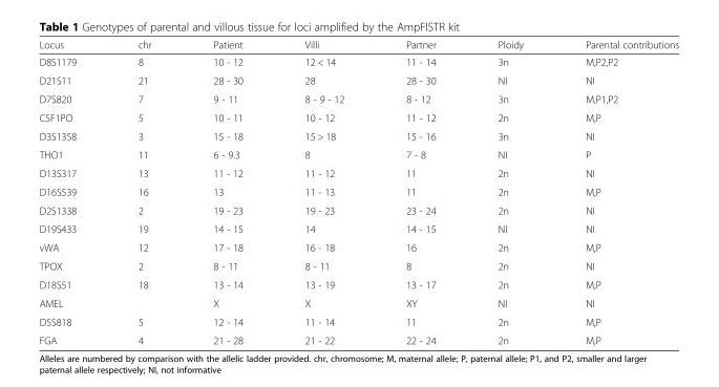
<table><thead><tr><td>Locus</td><td>chr</td><td>Patient</td><td>Villi</td><td>Partner</td><td>Ploidy</td><td>Parental contributions</td></tr></thead><tbody><tr><td>D8S1179</td><td>8</td><td>10 - 12</td><td>12 &lt; 14</td><td>11 - 14</td><td>3n</td><td>M,P2,P2</td></tr><tr><td>D21S11</td><td>21</td><td>28 - 30</td><td>28</td><td>28 - 30</td><td>NI</td><td>NI</td></tr><tr><td>D7S820</td><td>7</td><td>9 - 11</td><td>8 - 9 - 12</td><td>8 - 12</td><td>3n</td><td>M,P1,P2</td></tr><tr><td>CSF1PO</td><td>5</td><td>10 - 11</td><td>10 - 12</td><td>11 - 12</td><td>2n</td><td>M,P</td></tr><tr><td>D3S1358</td><td>3</td><td>15 - 18</td><td>15 &gt; 18</td><td>15 - 16</td><td>3n</td><td>NI</td></tr><tr><td>THO1</td><td>11</td><td>6 - 9.3</td><td>8</td><td>7 - 8</td><td>NI</td><td>P</td></tr><tr><td>D13S317</td><td>13</td><td>11 - 12</td><td>11 - 12</td><td>11</td><td>2n</td><td>NI</td></tr><tr><td>D16S539</td><td>16</td><td>13</td><td>11 - 13</td><td>11</td><td>2n</td><td>M,P</td></tr><tr><td>D2S1338</td><td>2</td><td>19 - 23</td><td>19 - 23</td><td>23 - 24</td><td>2n</td><td>NI</td></tr><tr><td>D19S433</td><td>19</td><td>14 - 15</td><td>14</td><td>14 - 15</td><td>NI</td><td>NI</td></tr><tr><td>vWA</td><td>12</td><td>17 - 18</td><td>16 - 18</td><td>16</td><td>2n</td><td>M,P</td></tr><tr><td>TPOX</td><td>2</td><td>8 - 11</td><td>8 - 11</td><td>8</td><td>2n</td><td>NI</td></tr><tr><td>D18S51</td><td>18</td><td>13 - 14</td><td>13 - 19</td><td>13 - 17</td><td>2n</td><td>M,P</td></tr><tr><td>AMEL</td><td></td><td>X</td><td>X</td><td>XY</td><td>NI</td><td>NI</td></tr><tr><td>D5S818</td><td>5</td><td>12 - 14</td><td>11 - 14</td><td>11</td><td>2n</td><td>M,P</td></tr><tr><td>FGA</td><td>4</td><td>21 - 28</td><td>21 - 22</td><td>22 - 24</td><td>2n</td><td>M,P</td></tr></tbody></table>